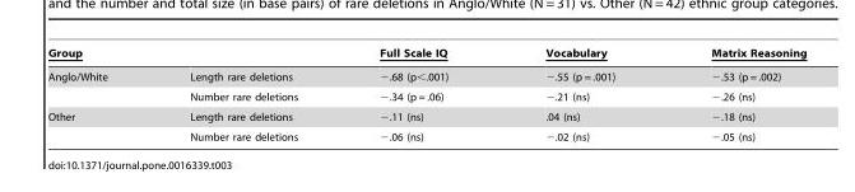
<table><thead><tr><td>Group</td><td></td><td>Full Scale IQ</td><td>Vocabulary</td><td>Matrix Reasoning</td></tr></thead><tbody><tr><td rowspan="2">Anglo/White</td><td>Length rare deletions</td><td>−.68 (p&lt;.001)</td><td>−.55 (p = .001)</td><td>−.53 (p = .002)</td></tr><tr><td>Number rare deletions</td><td>−.34 (p = .06)</td><td>−.21 (ns)</td><td>−.26 (ns)</td></tr><tr><td rowspan="2">Other</td><td>Length rare deletions</td><td>−.11 (ns)</td><td>.04 (ns)</td><td>−.18 (ns)</td></tr><tr><td>Number rare deletions</td><td>−.06 (ns)</td><td>−.02 (ns)</td><td>−.05 (ns)</td></tr></tbody></table>